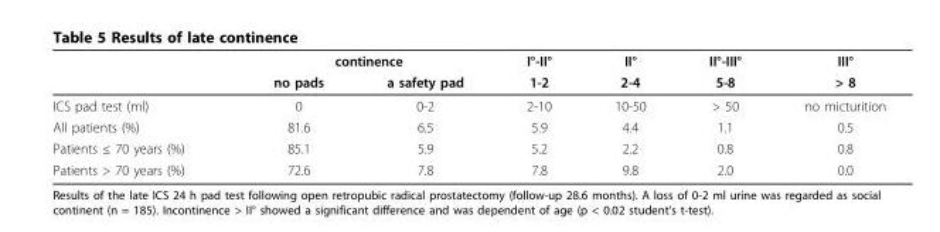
<table><thead><tr><td rowspan="2"></td><td colspan="2">continence</td><td rowspan="2">I°-II° 1-2</td><td rowspan="2">II° 2-4</td><td rowspan="2">II°-III° 5-8</td><td rowspan="2">III° &gt; 8</td></tr><tr><td>no pads</td><td>a safety pad</td></tr></thead><tbody><tr><td>ICS pad test (ml)</td><td>0</td><td>0-2</td><td>2-10</td><td>10-50</td><td>&gt; 50</td><td>no micturition</td></tr><tr><td>All patients (%)</td><td>81.6</td><td>6.5</td><td>5.9</td><td>4.4</td><td>1.1</td><td>0.5</td></tr><tr><td>Patients ≤ 70 years (%)</td><td>85.1</td><td>5.9</td><td>5.2</td><td>2.2</td><td>0.8</td><td>0.8</td></tr><tr><td>Patients &gt; 70 years (%)</td><td>72.6</td><td>7.8</td><td>7.8</td><td>9.8</td><td>2.0</td><td>0.0</td></tr></tbody></table>